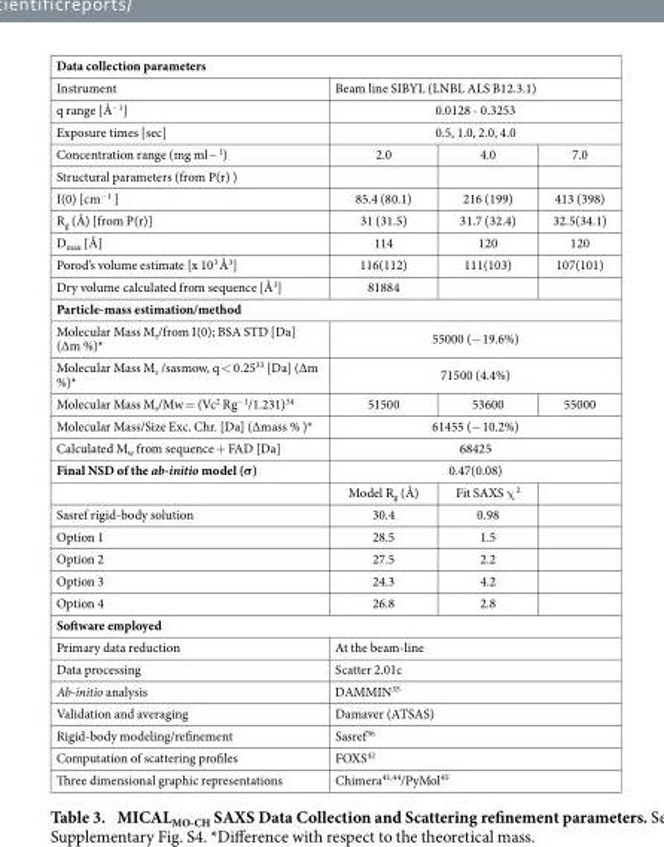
<table><tbody><tr><td colspan="4">Data collection parameters</td></tr><tr><td>Instrument</td><td colspan="3">Beam line SIBYL (LNBL ALS B12.3.1)</td></tr><tr><td>q range [Å<sup>−1</sup>]</td><td colspan="3">0.0128 - 0.3253</td></tr><tr><td>Exposure times [sec]</td><td colspan="3">0.5, 1.0, 2.0, 4.0</td></tr><tr><td>Concentration range (mg ml− <sup>1</sup>)</td><td>2.0</td><td>4.0</td><td>7.0</td></tr><tr><td colspan="4">Structural parameters (from P(r) )</td></tr><tr><td>I(0) [cm<sup>−1</sup> ]</td><td>85.4 (80.1)</td><td>216 (199)</td><td>413 (398)</td></tr><tr><td>R<sub>g</sub> (Å) [from P(r)]</td><td>31 (31.5)</td><td>31.7 (32.4)</td><td>32.5(34.1)</td></tr><tr><td>D<sub>max</sub> [Å]</td><td>114</td><td>120</td><td>120</td></tr><tr><td>Porod’s volume estimate [x 10<sup>3</sup> Å<sup>3</sup>]</td><td>116(112)</td><td>111(103)</td><td>107(101)</td></tr><tr><td>Dry volume calculated from sequence [Å<sup>3</sup>]</td><td>81884</td><td></td><td></td></tr><tr><td colspan="4">Particle-mass estimation/method</td></tr><tr><td>Molecular Mass M<sub>r</sub>/from I(0); BSA STD [Da] (Δm %)*</td><td colspan="3">55000 (− 19.6%)</td></tr><tr><td>Molecular Mass M<sub>r</sub> /sasmow, q &lt; 0.25<sup>33</sup> [Da] (Δm %)*</td><td colspan="3">71500 (4.4%)</td></tr><tr><td>Molecular Mass M<sub>r</sub>/Mw = (Vc<sup>2</sup> Rg<sup>−1</sup>/1.231)<sup>34</sup></td><td>51500</td><td>53600</td><td>55000</td></tr><tr><td>Molecular Mass/Size Exc. Chr. [Da] (Δmass % )*</td><td colspan="3">61455 (− 10.2%)</td></tr><tr><td>Calculated M<sub>w</sub> from sequence + FAD [Da]</td><td colspan="3">68425</td></tr><tr><td rowspan="2">Final NSD of the ab-initio model (σ)</td><td colspan="3">0.47(0.08)</td></tr><tr><td>Model R<sub>g</sub> (Å)</td><td>Fit SAXS χ <sup>2</sup></td><td></td></tr><tr><td>Sasref rigid-body solution</td><td>30.4</td><td>0.98</td><td></td></tr><tr><td>Option 1</td><td>28.5</td><td>1.5</td><td></td></tr><tr><td>Option 2</td><td>27.5</td><td>2.2</td><td></td></tr><tr><td>Option 3</td><td>24.3</td><td>4.2</td><td></td></tr><tr><td>Option 4</td><td>26.8</td><td>2.8</td><td></td></tr><tr><td colspan="4">Software employed</td></tr><tr><td>Primary data reduction</td><td colspan="3">At the beam-line</td></tr><tr><td>Data processing</td><td colspan="3">Scatter 2.01c</td></tr><tr><td>Ab-initio analysis</td><td colspan="3">DAMMIN<sup>35</sup></td></tr><tr><td>Validation and averaging</td><td colspan="3">Damaver (ATSAS)</td></tr><tr><td>Rigid-body modeling/refinement</td><td colspan="3">Sasref<sup>36</sup></td></tr><tr><td>Computation of scattering profiles</td><td colspan="3">FOXS<sup>42</sup></td></tr><tr><td>Three dimensional graphic representations</td><td colspan="3">Chimera<sup>41</sup>,<sup>44</sup>/PyMol<sup>45</sup></td></tr></tbody></table>